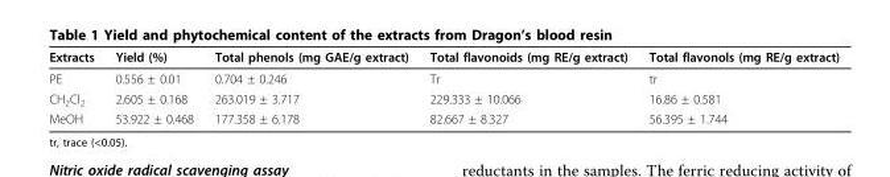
<table><thead><tr><td>Extracts</td><td>Yield (%)</td><td>Total phenols (mg GAE/g extract)</td><td>Total flavonoids (mg RE/g extract)</td><td>Total flavonols (mg RE/g extract)</td></tr></thead><tbody><tr><td>PE</td><td>0.556 ± 0.01</td><td>0.704 ± 0.246</td><td>Tr</td><td>tr</td></tr><tr><td>CH<sub>2</sub>Cl<sub>2</sub></td><td>2.605 ± 0.168</td><td>263.019 ± 3.717</td><td>229.333 ± 10.066</td><td>16.86 ± 0.581</td></tr><tr><td>MeOH</td><td>53.922 ± 0.468</td><td>177.358 ± 6.178</td><td>82.667 ± 8.327</td><td>56.395 ± 1.744</td></tr></tbody></table>